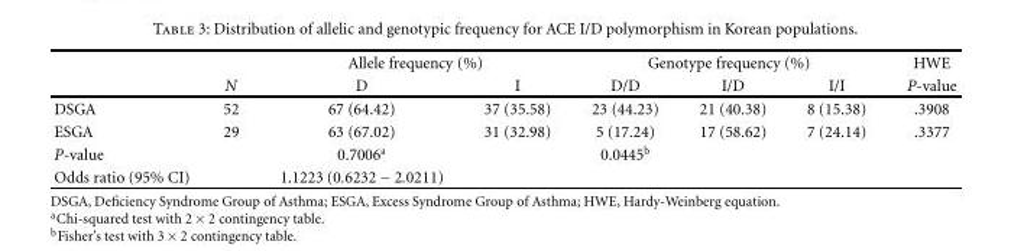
<table><thead><tr><td rowspan="2"></td><td rowspan="2">N</td><td colspan="2">Allele frequency (%)</td><td colspan="3">Genotype frequency (%)</td><td rowspan="2">HWE P-value</td></tr><tr><td>D</td><td>I</td><td>D/D</td><td>I/D</td><td>I/I</td></tr></thead><tbody><tr><td>DSGA</td><td>52</td><td>67 (64.42)</td><td>37 (35.58)</td><td>23 (44.23)</td><td>21 (40.38)</td><td>8 (15.38)</td><td>.3908</td></tr><tr><td>ESGA</td><td>29</td><td>63 (67.02)</td><td>31 (32.98)</td><td>5 (17.24)</td><td>17 (58.62)</td><td>7 (24.14)</td><td>.3377</td></tr><tr><td>P-value</td><td></td><td>0.7006<sup>a</sup></td><td></td><td>0.0445<sup>b</sup></td><td></td><td></td><td></td></tr><tr><td>Odds ratio (95% CI)</td><td></td><td>1.1223 (0.6232 − 2.0211)</td><td></td><td></td><td></td><td></td><td></td></tr></tbody></table>